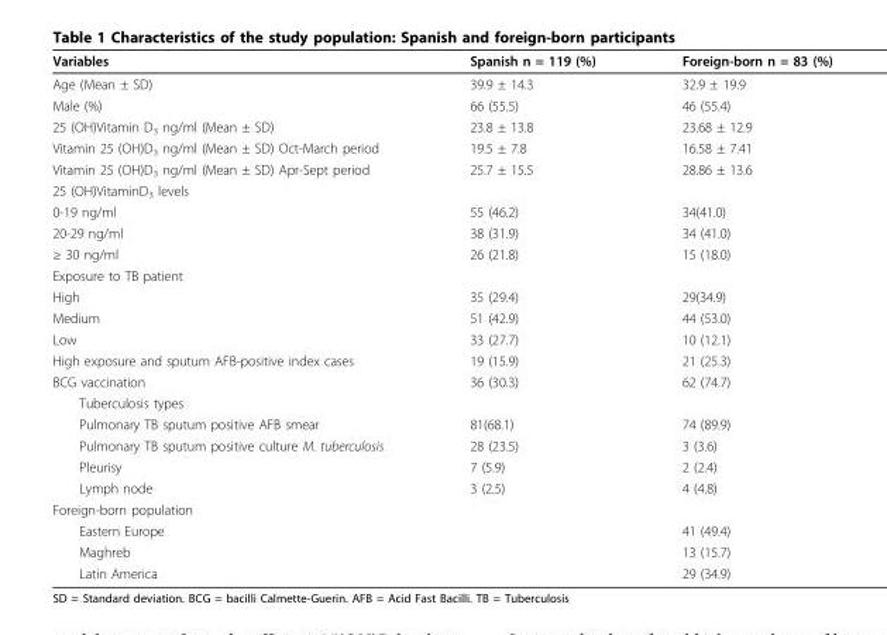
<table><thead><tr><td>Variables</td><td>Spanish n = 119 (%)</td><td>Foreign-born n = 83 (%)</td></tr></thead><tbody><tr><td>Age (Mean ± SD)</td><td>39.9 ± 14.3</td><td>32.9 ± 19.9</td></tr><tr><td>Male (%)</td><td>66 (55.5)</td><td>46 (55.4)</td></tr><tr><td>25 (OH)Vitamin D<sub>3</sub> ng/ml (Mean ± SD)</td><td>23.8 ± 13.8</td><td>23.68 ± 12.9</td></tr><tr><td>Vitamin 25 (OH)D<sub>3</sub> ng/ml (Mean ± SD) Oct-March period</td><td>19.5 ± 7.8</td><td>16.58 ± 7.41</td></tr><tr><td>Vitamin 25 (OH)D<sub>3</sub> ng/ml (Mean ± SD) Apr-Sept period</td><td>25.7 ± 15.5</td><td>28.86 ± 13.6</td></tr><tr><td colspan="3">25 (OH)VitaminD<sub>3</sub> levels</td></tr><tr><td>0-19 ng/ml</td><td>55 (46.2)</td><td>34(41.0)</td></tr><tr><td>20-29 ng/ml</td><td>38 (31.9)</td><td>34 (41.0)</td></tr><tr><td>≥ 30 ng/ml</td><td>26 (21.8)</td><td>15 (18.0)</td></tr><tr><td colspan="3">Exposure to TB patient</td></tr><tr><td>High</td><td>35 (29.4)</td><td>29(34.9)</td></tr><tr><td>Medium</td><td>51 (42.9)</td><td>44 (53.0)</td></tr><tr><td>Low</td><td>33 (27.7)</td><td>10 (12.1)</td></tr><tr><td>High exposure and sputum AFB-positive index cases</td><td>19 (15.9)</td><td>21 (25.3)</td></tr><tr><td>BCG vaccination</td><td>36 (30.3)</td><td>62 (74.7)</td></tr><tr><td colspan="3">Tuberculosis types</td></tr><tr><td>Pulmonary TB sputum positive AFB smear</td><td>81(68.1)</td><td>74 (89.9)</td></tr><tr><td>Pulmonary TB sputum positive culture M. tuberculosis</td><td>28 (23.5)</td><td>3 (3.6)</td></tr><tr><td>Pleurisy</td><td>7 (5.9)</td><td>2 (2.4)</td></tr><tr><td>Lymph node</td><td>3 (2.5)</td><td>4 (4.8)</td></tr><tr><td colspan="3">Foreign-born population</td></tr><tr><td>Eastern Europe</td><td></td><td>41 (49.4)</td></tr><tr><td>Maghreb</td><td></td><td>13 (15.7)</td></tr><tr><td>Latin America</td><td></td><td>29 (34.9)</td></tr></tbody></table>